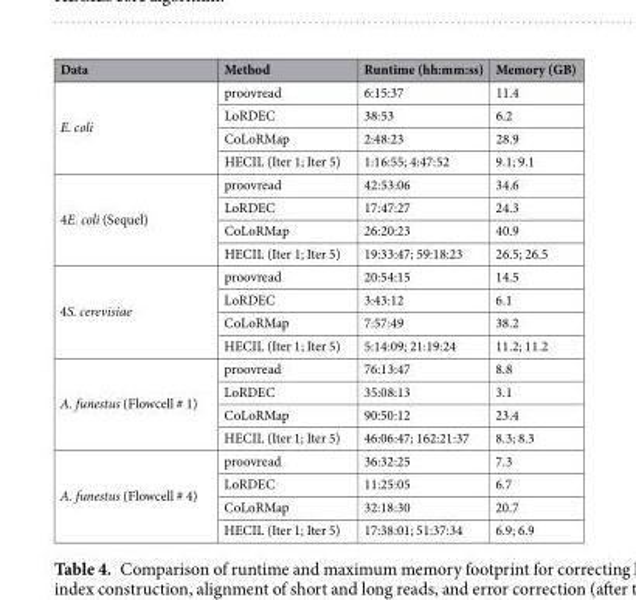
<table><thead><tr><td>Data</td><td>Method</td><td>Runtime (hh:mm:ss)</td><td>Memory (GB)</td></tr></thead><tbody><tr><td rowspan="4">E. coli</td><td>proovread</td><td>6:15:37</td><td>11.4</td></tr><tr><td>LoRDEC</td><td>38:53</td><td>6.2</td></tr><tr><td>CoLoRMap</td><td>2:48:23</td><td>28.9</td></tr><tr><td>HECIL (Iter 1; Iter 5)</td><td>1:16:55; 4:47:52</td><td>9.1; 9.1</td></tr><tr><td rowspan="4">4E. coli (Sequel)</td><td>proovread</td><td>42:53:06</td><td>34.6</td></tr><tr><td>LoRDEC</td><td>17:47:27</td><td>24.3</td></tr><tr><td>CoLoRMap</td><td>26:20:23</td><td>40.9</td></tr><tr><td>HECIL (Iter 1; Iter 5)</td><td>19:33:47; 59:18:23</td><td>26.5; 26.5</td></tr><tr><td rowspan="4">4S. cerevisiae</td><td>proovread</td><td>20:54:15</td><td>14.5</td></tr><tr><td>LoRDEC</td><td>3:43:12</td><td>6.1</td></tr><tr><td>CoLoRMap</td><td>7:57:49</td><td>38.2</td></tr><tr><td>HECIL (Iter 1; Iter 5)</td><td>5:14:09; 21:19:24</td><td>11.2; 11.2</td></tr><tr><td rowspan="4">A. funestus (Flowcell # 1)</td><td>proovread</td><td>76:13:47</td><td>8.8</td></tr><tr><td>LoRDEC</td><td>35:08:13</td><td>3.1</td></tr><tr><td>CoLoRMap</td><td>90:50:12</td><td>23.4</td></tr><tr><td>HECIL (Iter 1; Iter 5)</td><td>46:06:47; 162:21:37</td><td>8.3; 8.3</td></tr><tr><td rowspan="4">A. funestus (Flowcell # 4)</td><td>proovread</td><td>36:32:25</td><td>7.3</td></tr><tr><td>LoRDEC</td><td>11:25:05</td><td>6.7</td></tr><tr><td>CoLoRMap</td><td>32:18:30</td><td>20.7</td></tr><tr><td>HECIL (Iter 1; Iter 5)</td><td>17:38:01; 51:37:34</td><td>6.9; 6.9</td></tr></tbody></table>